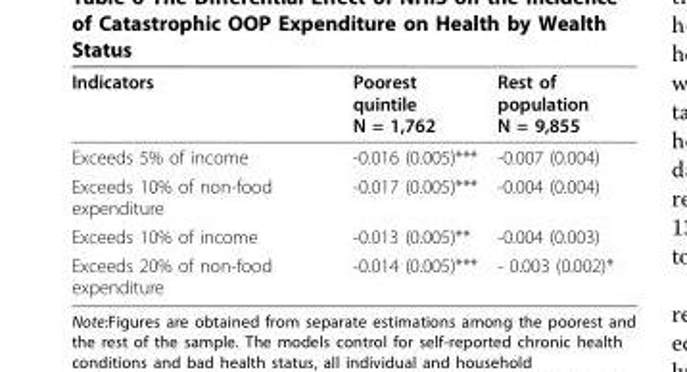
<table><thead><tr><td>Indicators</td><td>Poorest quintile N = 1,762</td><td>Rest of population N = 9,855</td></tr></thead><tbody><tr><td>Exceeds 5% of income</td><td>-0.016 (0.005)***</td><td>-0.007 (0.004)</td></tr><tr><td>Exceeds 10% of non-food expenditure</td><td>-0.017 (0.005)***</td><td>-0.004 (0.004)</td></tr><tr><td>Exceeds 10% of income</td><td>-0.013 (0.005)**</td><td>-0.004 (0.003)</td></tr><tr><td>Exceeds 20% of non-food expenditure</td><td>-0.014 (0.005)***</td><td>- 0.003 (0.002)*</td></tr></tbody></table>